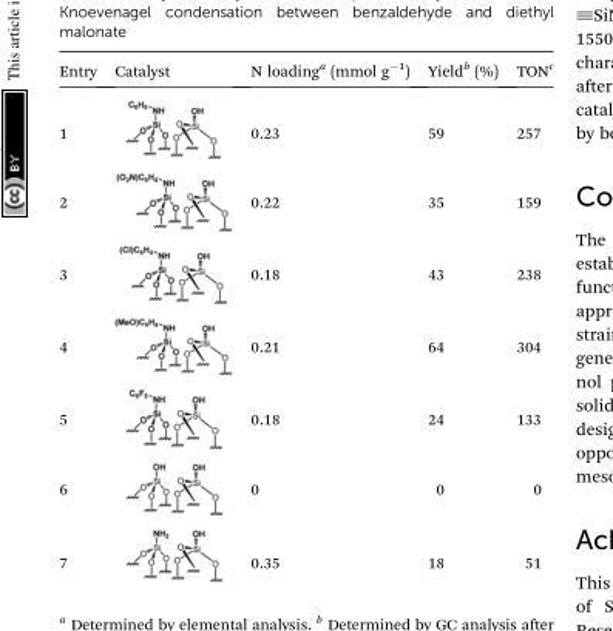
<table><thead><tr><td>Entry</td><td>Catalyst</td><td>N loading<sup>a</sup> (mmol g<sup>–1</sup>)</td><td>Yield<sup>b</sup> (%)</td><td>TON<sup>c</sup></td></tr></thead><tbody><tr><td>1</td><td></td><td>0.23</td><td>59</td><td>257</td></tr><tr><td>2</td><td></td><td>0.22</td><td>35</td><td>159</td></tr><tr><td>3</td><td></td><td>0.18</td><td>43</td><td>238</td></tr><tr><td>4</td><td></td><td>0.21</td><td>64</td><td>304</td></tr><tr><td>5</td><td></td><td>0.18</td><td>24</td><td>133</td></tr><tr><td>6</td><td></td><td>0</td><td>0</td><td>0</td></tr><tr><td>7</td><td></td><td>0.35</td><td>18</td><td>51</td></tr></tbody></table>